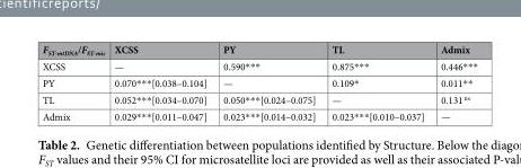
<table><thead><tr><td>F<sub>ST-mtDNA/FST-mic</sub></td><td>XCSS</td><td>PY</td><td>TL</td><td>Admix</td></tr></thead><tbody><tr><td>XCSS</td><td>—</td><td>0.590***</td><td>0.875***</td><td>0.446***</td></tr><tr><td>PY</td><td>0.070***[0.038–0.104]</td><td>—</td><td>0.109*</td><td>0.011**</td></tr><tr><td>TL</td><td>0.052***[0.034–0.070]</td><td>0.050***[0.024–0.075]</td><td>—</td><td>0.131 <sup>ns</sup></td></tr><tr><td>Admix</td><td>0.029***[0.011–0.047]</td><td>0.023***[0.014–0.032]</td><td>0.023***[0.010–0.037]</td><td>—</td></tr></tbody></table>